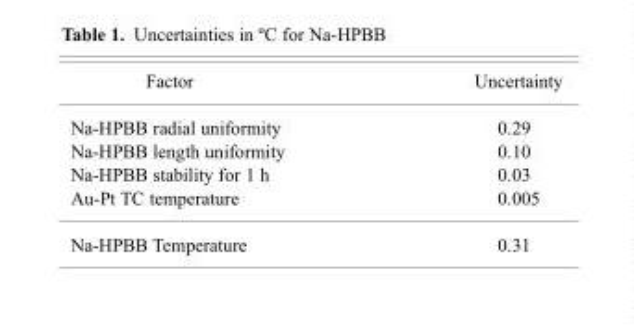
<table><thead><tr><td>Factor</td><td>Uncertainty</td></tr></thead><tbody><tr><td>Na-HPBB radial uniformity</td><td>0.29</td></tr><tr><td>Na-HPBB length uniformity</td><td>0.10</td></tr><tr><td>Na-HPBB stability for 1 h</td><td>0.03</td></tr><tr><td>Au-Pt TC temperature</td><td>0.005</td></tr><tr><td>Na-HPBB Temperature</td><td>0.31</td></tr></tbody></table>